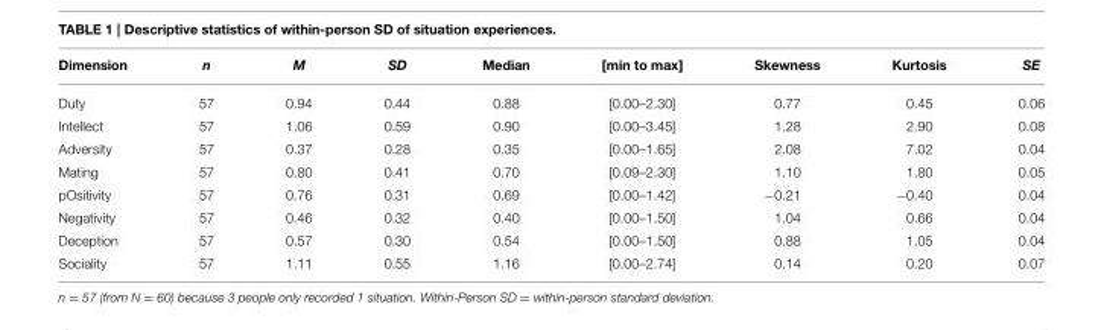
<table><thead><tr><td>Dimension</td><td>n</td><td>M</td><td>SD</td><td>Median</td><td>[min to max]</td><td>Skewness</td><td>Kurtosis</td><td>SE</td></tr></thead><tbody><tr><td>Duty</td><td>57</td><td>0.94</td><td>0.44</td><td>0.88</td><td>[0.00–2.30]</td><td>0.77</td><td>0.45</td><td>0.06</td></tr><tr><td>Intellect</td><td>57</td><td>1.06</td><td>0.59</td><td>0.90</td><td>[0.00–3.45]</td><td>1.28</td><td>2.90</td><td>0.08</td></tr><tr><td>Adversity</td><td>57</td><td>0.37</td><td>0.28</td><td>0.35</td><td>[0.00–1.65]</td><td>2.08</td><td>7.02</td><td>0.04</td></tr><tr><td>Mating</td><td>57</td><td>0.80</td><td>0.41</td><td>0.70</td><td>[0.09–2.30]</td><td>1.10</td><td>1.80</td><td>0.05</td></tr><tr><td>pOsitivity</td><td>57</td><td>0.76</td><td>0.31</td><td>0.69</td><td>[0.00–1.42]</td><td>−0.21</td><td>−0.40</td><td>0.04</td></tr><tr><td>Negativity</td><td>57</td><td>0.46</td><td>0.32</td><td>0.40</td><td>[0.00–1.50]</td><td>1.04</td><td>0.66</td><td>0.04</td></tr><tr><td>Deception</td><td>57</td><td>0.57</td><td>0.30</td><td>0.54</td><td>[0.00–1.50]</td><td>0.88</td><td>1.05</td><td>0.04</td></tr><tr><td>Sociality</td><td>57</td><td>1.11</td><td>0.55</td><td>1.16</td><td>[0.00–2.74]</td><td>0.14</td><td>0.20</td><td>0.07</td></tr></tbody></table>